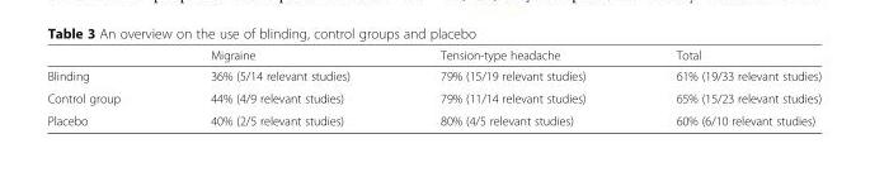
<table><thead><tr><td></td><td>Migraine</td><td>Tension-type headache</td><td>Total</td></tr></thead><tbody><tr><td>Blinding</td><td>36% (5/14 relevant studies)</td><td>79% (15/19 relevant studies)</td><td>61% (19/33 relevant studies)</td></tr><tr><td>Control group</td><td>44% (4/9 relevant studies)</td><td>79% (11/14 relevant studies)</td><td>65% (15/23 relevant studies)</td></tr><tr><td>Placebo</td><td>40% (2/5 relevant studies)</td><td>80% (4/5 relevant studies)</td><td>60% (6/10 relevant studies)</td></tr></tbody></table>